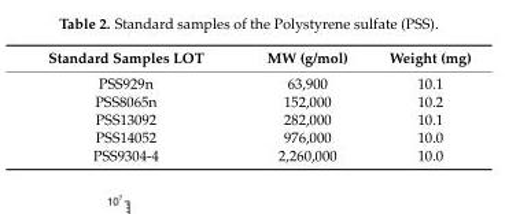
<table><thead><tr><td>Standard Samples LOT</td><td>MW (g/mol)</td><td>Weight (mg)</td></tr></thead><tbody><tr><td>PSS929n</td><td>63,900</td><td>10.1</td></tr><tr><td>PSS8065n</td><td>152,000</td><td>10.2</td></tr><tr><td>PSS13092</td><td>282,000</td><td>10.1</td></tr><tr><td>PSS14052</td><td>976,000</td><td>10.0</td></tr><tr><td>PSS9304-4</td><td>2,260,000</td><td>10.0</td></tr></tbody></table>